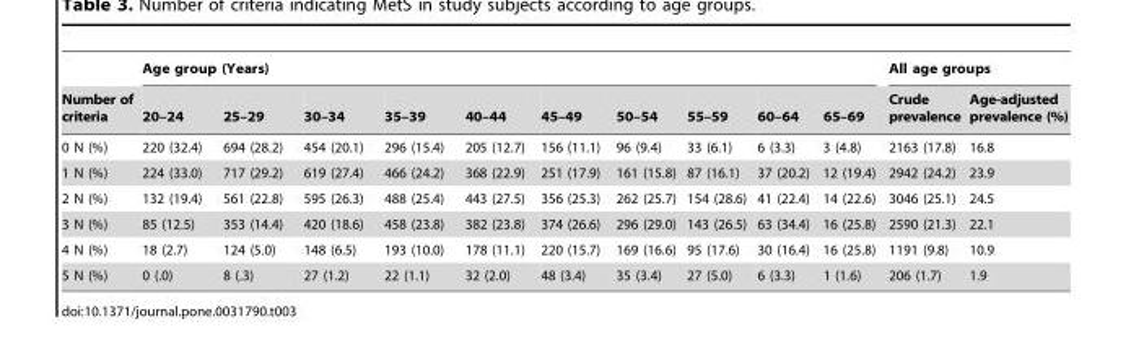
<table><thead><tr><td rowspan="2">Number of criteria</td><td colspan="10">Age group (Years)</td><td colspan="2">All age groups</td></tr><tr><td>20–24</td><td>25–29</td><td>30–34</td><td>35–39</td><td>40–44</td><td>45–49</td><td>50–54</td><td>55–59</td><td>60–64</td><td>65–69</td><td>Crude prevalence</td><td>Age-adjusted prevalence (%)</td></tr></thead><tbody><tr><td>0 N (%)</td><td>220 (32.4)</td><td>694 (28.2)</td><td>454 (20.1)</td><td>296 (15.4)</td><td>205 (12.7)</td><td>156 (11.1)</td><td>96 (9.4)</td><td>33 (6.1)</td><td>6 (3.3)</td><td>3 (4.8)</td><td>2163 (17.8)</td><td>16.8</td></tr><tr><td>1 N (%)</td><td>224 (33.0)</td><td>717 (29.2)</td><td>619 (27.4)</td><td>466 (24.2)</td><td>368 (22.9)</td><td>251 (17.9)</td><td>161 (15.8)</td><td>87 (16.1)</td><td>37 (20.2)</td><td>12 (19.4)</td><td>2942 (24.2)</td><td>23.9</td></tr><tr><td>2 N (%)</td><td>132 (19.4)</td><td>561 (22.8)</td><td>595 (26.3)</td><td>488 (25.4)</td><td>443 (27.5)</td><td>356 (25.3)</td><td>262 (25.7)</td><td>154 (28.6)</td><td>41 (22.4)</td><td>14 (22.6)</td><td>3046 (25.1)</td><td>24.5</td></tr><tr><td>3 N (%)</td><td>85 (12.5)</td><td>353 (14.4)</td><td>420 (18.6)</td><td>458 (23.8)</td><td>382 (23.8)</td><td>374 (26.6)</td><td>296 (29.0)</td><td>143 (26.5)</td><td>63 (34.4)</td><td>16 (25.8)</td><td>2590 (21.3)</td><td>22.1</td></tr><tr><td>4 N (%)</td><td>18 (2.7)</td><td>124 (5.0)</td><td>148 (6.5)</td><td>193 (10.0)</td><td>178 (11.1)</td><td>220 (15.7)</td><td>169 (16.6)</td><td>95 (17.6)</td><td>30 (16.4)</td><td>16 (25.8)</td><td>1191 (9.8)</td><td>10.9</td></tr><tr><td>5 N (%)</td><td>0 (.0)</td><td>8 (.3)</td><td>27 (1.2)</td><td>22 (1.1)</td><td>32 (2.0)</td><td>48 (3.4)</td><td>35 (3.4)</td><td>27 (5.0)</td><td>6 (3.3)</td><td>1 (1.6)</td><td>206 (1.7)</td><td>1.9</td></tr></tbody></table>